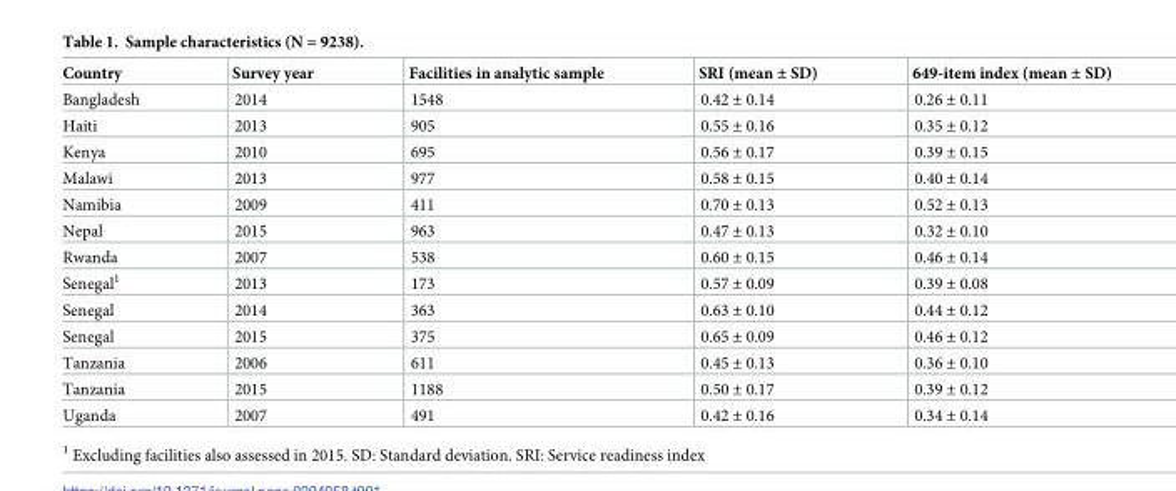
<table><thead><tr><td>Country</td><td>Survey year</td><td>Facilities in analytic sample</td><td>SRI (mean ± SD)</td><td>649-item index (mean ± SD)</td></tr></thead><tbody><tr><td>Bangladesh</td><td>2014</td><td>1548</td><td>0.42 ± 0.14</td><td>0.26 ± 0.11</td></tr><tr><td>Haiti</td><td>2013</td><td>905</td><td>0.55 ± 0.16</td><td>0.35 ± 0.12</td></tr><tr><td>Kenya</td><td>2010</td><td>695</td><td>0.56 ± 0.17</td><td>0.39 ± 0.15</td></tr><tr><td>Malawi</td><td>2013</td><td>977</td><td>0.58 ± 0.15</td><td>0.40 ± 0.14</td></tr><tr><td>Namibia</td><td>2009</td><td>411</td><td>0.70 ± 0.13</td><td>0.52 ± 0.13</td></tr><tr><td>Nepal</td><td>2015</td><td>963</td><td>0.47 ± 0.13</td><td>0.32 ± 0.10</td></tr><tr><td>Rwanda</td><td>2007</td><td>538</td><td>0.60 ± 0.15</td><td>0.46 ± 0.14</td></tr><tr><td>Senegal<sup>1</sup></td><td>2013</td><td>173</td><td>0.57 ± 0.09</td><td>0.39 ± 0.08</td></tr><tr><td>Senegal</td><td>2014</td><td>363</td><td>0.63 ± 0.10</td><td>0.44 ± 0.12</td></tr><tr><td>Senegal</td><td>2015</td><td>375</td><td>0.65 ± 0.09</td><td>0.46 ± 0.12</td></tr><tr><td>Tanzania</td><td>2006</td><td>611</td><td>0.45 ± 0.13</td><td>0.36 ± 0.10</td></tr><tr><td>Tanzania</td><td>2015</td><td>1188</td><td>0.50 ± 0.17</td><td>0.39 ± 0.12</td></tr><tr><td>Uganda</td><td>2007</td><td>491</td><td>0.42 ± 0.16</td><td>0.34 ± 0.14</td></tr></tbody></table>